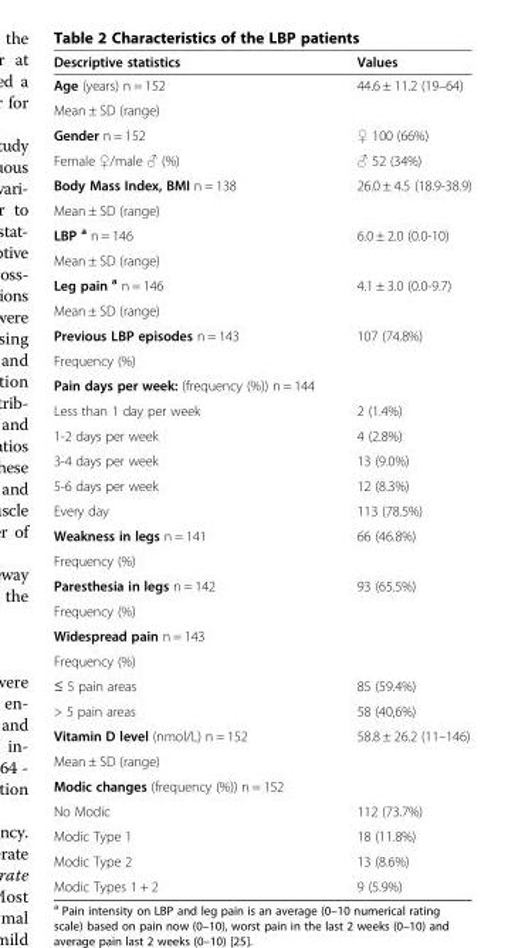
<table><thead><tr><td>Descriptive statistics</td><td>Values</td></tr></thead><tbody><tr><td>Age (years) n = 152</td><td rowspan="2">44.6 ± 11.2 (19–64)</td></tr><tr><td>Mean ± SD (range)</td></tr><tr><td>Gender n = 152</td><td>♀ 100 (66%)</td></tr><tr><td>Female ♀/male ♂ (%)</td><td>♂ 52 (34%)</td></tr><tr><td>Body Mass Index, BMI n = 138</td><td rowspan="2">26.0 ± 4.5 (18.9-38.9)</td></tr><tr><td>Mean ± SD (range)</td></tr><tr><td>LBP <sup>a</sup> n = 146</td><td rowspan="2">6.0 ± 2.0 (0.0-10)</td></tr><tr><td>Mean ± SD (range)</td></tr><tr><td>Leg pain <sup>a</sup> n = 146</td><td rowspan="2">4.1 ± 3.0 (0.0-9.7)</td></tr><tr><td>Mean ± SD (range)</td></tr><tr><td>Previous LBP episodes n = 143</td><td rowspan="2">107 (74.8%)</td></tr><tr><td>Frequency (%)</td></tr><tr><td colspan="2">Pain days per week: (frequency (%)) n = 144</td></tr><tr><td>Less than 1 day per week</td><td>2 (1.4%)</td></tr><tr><td>1-2 days per week</td><td>4 (2.8%)</td></tr><tr><td>3-4 days per week</td><td>13 (9.0%)</td></tr><tr><td>5-6 days per week</td><td>12 (8.3%)</td></tr><tr><td>Every day</td><td>113 (78.5%)</td></tr><tr><td>Weakness in legs n = 141</td><td rowspan="2">66 (46.8%)</td></tr><tr><td>Frequency (%)</td></tr><tr><td>Paresthesia in legs n = 142</td><td rowspan="2">93 (65.5%)</td></tr><tr><td>Frequency (%)</td></tr><tr><td colspan="2">Widespread pain n = 143</td></tr><tr><td colspan="2">Frequency (%)</td></tr><tr><td>≤ 5 pain areas</td><td>85 (59.4%)</td></tr><tr><td>&gt; 5 pain areas</td><td>58 (40,6%)</td></tr><tr><td>Vitamin D level (nmol/L) n = 152</td><td rowspan="2">58.8 ± 26.2 (11–146)</td></tr><tr><td>Mean ± SD (range)</td></tr><tr><td colspan="2">Modic changes (frequency (%)) n = 152</td></tr><tr><td>No Modic</td><td>112 (73.7%)</td></tr><tr><td>Modic Type 1</td><td>18 (11.8%)</td></tr><tr><td>Modic Type 2</td><td>13 (8.6%)</td></tr><tr><td>Modic Types 1 + 2</td><td>9 (5.9%)</td></tr></tbody></table>